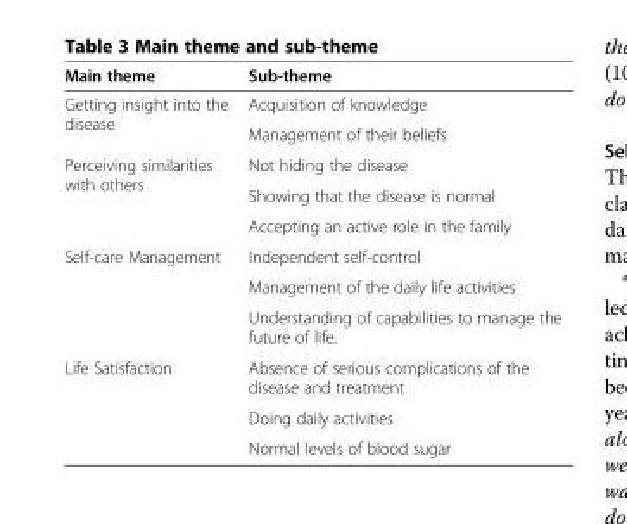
<table><thead><tr><td>Main theme</td><td>Sub-theme</td></tr></thead><tbody><tr><td rowspan="2">Getting insight into the disease</td><td>Acquisition of knowledge</td></tr><tr><td>Management of their beliefs</td></tr><tr><td rowspan="3">Perceiving similarities with others</td><td>Not hiding the disease</td></tr><tr><td>Showing that the disease is normal</td></tr><tr><td>Accepting an active role in the family</td></tr><tr><td rowspan="3">Self-care Management</td><td>Independent self-control</td></tr><tr><td>Management of the daily life activities</td></tr><tr><td>Understanding of capabilities to manage the future of life.</td></tr><tr><td rowspan="3">Life Satisfaction</td><td>Absence of serious complications of the disease and treatment</td></tr><tr><td>Doing daily activities</td></tr><tr><td>Normal levels of blood sugar</td></tr></tbody></table>